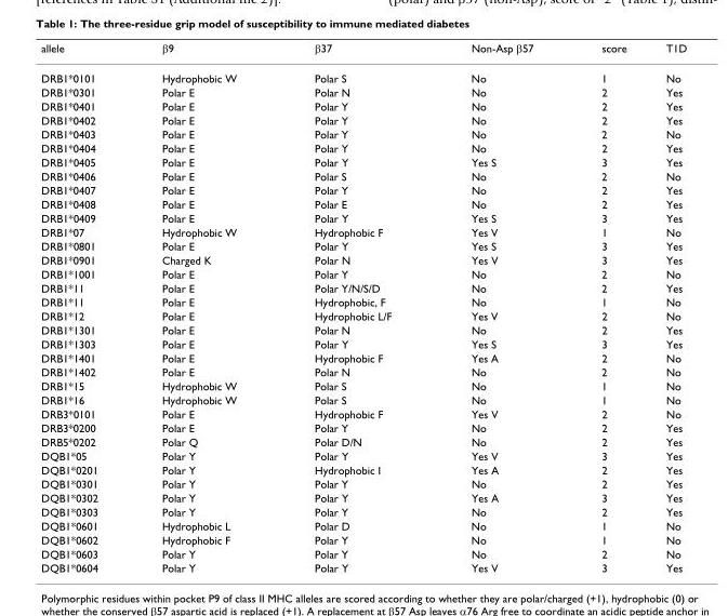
<table><thead><tr><td>allele</td><td>β9</td><td>β37</td><td>Non-Asp β57</td><td>score</td><td>T1D</td></tr></thead><tbody><tr><td>DRB1*0101</td><td>Hydrophobic W</td><td>Polar S</td><td>No</td><td>1</td><td>No</td></tr><tr><td>DRB1*0301</td><td>Polar E</td><td>Polar N</td><td>No</td><td>2</td><td>Yes</td></tr><tr><td>DRB1*0401</td><td>Polar E</td><td>Polar Y</td><td>No</td><td>2</td><td>Yes</td></tr><tr><td>DRB1*0402</td><td>Polar E</td><td>Polar Y</td><td>No</td><td>2</td><td>Yes</td></tr><tr><td>DRB1*0403</td><td>Polar E</td><td>Polar Y</td><td>No</td><td>2</td><td>No</td></tr><tr><td>DRB1*0404</td><td>Polar E</td><td>Polar Y</td><td>No</td><td>2</td><td>Yes</td></tr><tr><td>DRB1*0405</td><td>Polar E</td><td>Polar Y</td><td>Yes S</td><td>3</td><td>Yes</td></tr><tr><td>DRB1*0406</td><td>Polar E</td><td>Polar S</td><td>No</td><td>2</td><td>No</td></tr><tr><td>DRB1*0407</td><td>Polar E</td><td>Polar Y</td><td>No</td><td>2</td><td>Yes</td></tr><tr><td>DRB1*0408</td><td>Polar E</td><td>Polar E</td><td>No</td><td>2</td><td>Yes</td></tr><tr><td>DRB1*0409</td><td>Polar E</td><td>Polar Y</td><td>Yes S</td><td>3</td><td>Yes</td></tr><tr><td>DRB1*07</td><td>Hydrophobic W</td><td>Hydrophobic F</td><td>Yes V</td><td>1</td><td>No</td></tr><tr><td>DRB1*0801</td><td>Polar E</td><td>Polar Y</td><td>Yes S</td><td>3</td><td>Yes</td></tr><tr><td>DRB1*0901</td><td>Charged K</td><td>Polar N</td><td>Yes V</td><td>3</td><td>Yes</td></tr><tr><td>DRB1*1001</td><td>Polar E</td><td>Polar Y</td><td>No</td><td>2</td><td>No</td></tr><tr><td>DRB1*11</td><td>Polar E</td><td>Polar Y/N/S/D</td><td>No</td><td>2</td><td>Yes</td></tr><tr><td>DRB1*11</td><td>Polar E</td><td>Hydrophobic, F</td><td>No</td><td>1</td><td>No</td></tr><tr><td>DRB1*12</td><td>Polar E</td><td>Hydrophobic L/F</td><td>Yes V</td><td>2</td><td>No</td></tr><tr><td>DRB1*1301</td><td>Polar E</td><td>Polar N</td><td>No</td><td>2</td><td>Yes</td></tr><tr><td>DRB1*1303</td><td>Polar E</td><td>Polar Y</td><td>Yes S</td><td>3</td><td>Yes</td></tr><tr><td>DRB1*1401</td><td>Polar E</td><td>Hydrophobic F</td><td>Yes A</td><td>2</td><td>No</td></tr><tr><td>DRB1*1402</td><td>Polar E</td><td>Polar N</td><td>No</td><td>2</td><td>No</td></tr><tr><td>DRB1*15</td><td>Hydrophobic W</td><td>Polar S</td><td>No</td><td>1</td><td>No</td></tr><tr><td>DRB1*16</td><td>Hydrophobic W</td><td>Polar S</td><td>No</td><td>1</td><td>No</td></tr><tr><td>DRB3*0101</td><td>Polar E</td><td>Hydrophobic F</td><td>Yes V</td><td>2</td><td>No</td></tr><tr><td>DRB3*0200</td><td>Polar E</td><td>Polar Y</td><td>No</td><td>2</td><td>Yes</td></tr><tr><td>DRB5*0202</td><td>Polar Q</td><td>Polar D/N</td><td>No</td><td>2</td><td>Yes</td></tr><tr><td>DQB1*05</td><td>Polar Y</td><td>Polar Y</td><td>Yes V</td><td>3</td><td>Yes</td></tr><tr><td>DQB1*0201</td><td>Polar Y</td><td>Hydrophobic I</td><td>Yes A</td><td>2</td><td>Yes</td></tr><tr><td>DQB1*0301</td><td>Polar Y</td><td>Polar Y</td><td>No</td><td>2</td><td>Yes</td></tr><tr><td>DQB1*0302</td><td>Polar Y</td><td>Polar Y</td><td>Yes A</td><td>3</td><td>Yes</td></tr><tr><td>DQB1*0303</td><td>Polar Y</td><td>Polar Y</td><td>No</td><td>2</td><td>Yes</td></tr><tr><td>DQB1*0601</td><td>Hydrophobic L</td><td>Polar D</td><td>No</td><td>1</td><td>No</td></tr><tr><td>DQB1*0602</td><td>Hydrophobic F</td><td>Polar Y</td><td>No</td><td>1</td><td>No</td></tr><tr><td>DQB1*0603</td><td>Polar Y</td><td>Polar Y</td><td>No</td><td>2</td><td>No</td></tr><tr><td>DQB1*0604</td><td>Polar Y</td><td>Polar Y</td><td>Yes V</td><td>3</td><td>Yes</td></tr></tbody></table>